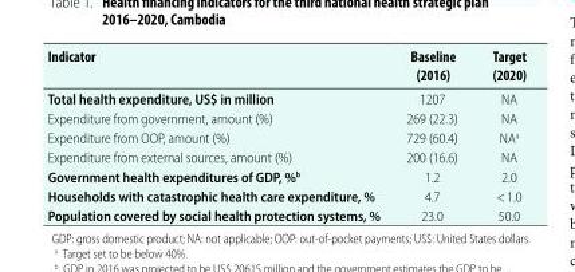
<table><thead><tr><td>Indicator</td><td>Baseline (2016)</td><td>Target (2020)</td></tr></thead><tbody><tr><td>Total health expenditure, US$ in million</td><td>1207</td><td>NA</td></tr><tr><td>Expenditure from government, amount (%)</td><td>269 (22.3)</td><td>NA</td></tr><tr><td>Expenditure from OOP, amount (%)</td><td>729 (60.4)</td><td>NA<sup>a</sup></td></tr><tr><td>Expenditure from external sources, amount (%)</td><td>200 (16.6)</td><td>NA</td></tr><tr><td>Government health expenditures of GDP, %<sup>b</sup></td><td>1.2</td><td>2.0</td></tr><tr><td>Households with catastrophic health care expenditure, %</td><td>4.7</td><td>&lt; 1.0</td></tr><tr><td>Population covered by social health protection systems, %</td><td>23.0</td><td>50.0</td></tr></tbody></table>